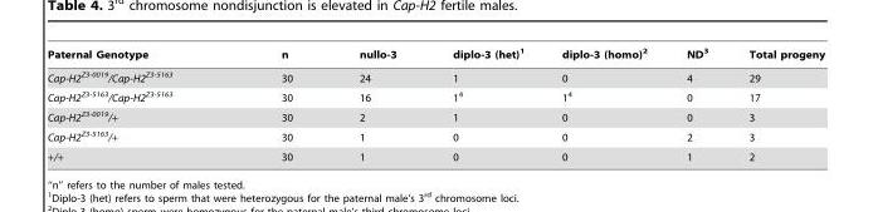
<table><thead><tr><td>Paternal Genotype</td><td>n</td><td>nullo-3</td><td>diplo-3 (het)<sup>1</sup></td><td>diplo-3 (homo)<sup>2</sup></td><td>ND<sup>3</sup></td><td>Total progeny</td></tr></thead><tbody><tr><td>Cap-H2<sup>Z3-0019</sup>/Cap-H2<sup>Z3-5163</sup></td><td>30</td><td>24</td><td>1</td><td>0</td><td>4</td><td>29</td></tr><tr><td>Cap-H2<sup>Z3-5163</sup>/Cap-H2<sup>Z3-5163</sup></td><td>30</td><td>16</td><td>1<sup>4</sup></td><td>1<sup>4</sup></td><td>0</td><td>17</td></tr><tr><td>Cap-H2<sup>Z3-0019</sup>/+</td><td>30</td><td>2</td><td>1</td><td>0</td><td>0</td><td>3</td></tr><tr><td>Cap-H2<sup>Z3-5163</sup>/+</td><td>30</td><td>1</td><td>0</td><td>0</td><td>2</td><td>3</td></tr><tr><td>+/+</td><td>30</td><td>1</td><td>0</td><td>0</td><td>1</td><td>2</td></tr></tbody></table>